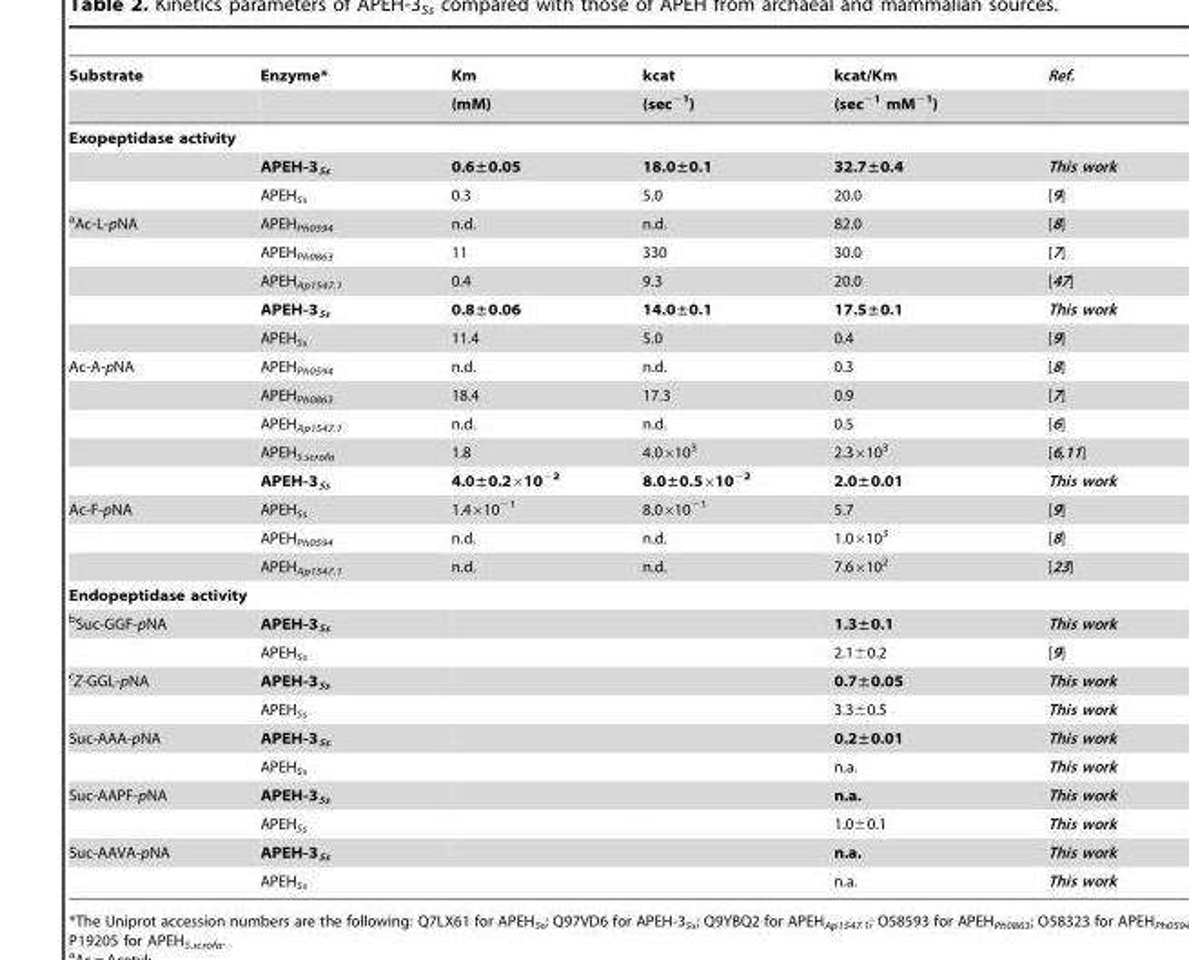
<table><thead><tr><td rowspan="2">Substrate</td><td rowspan="2">Enzyme*</td><td rowspan="2">Km (mM)</td><td rowspan="2">kcat (sec<sup>−1</sup>)</td><td rowspan="2">kcat/Km (sec<sup>−1</sup> mM<sup>−1</sup>)</td><td rowspan="2">Ref.</td></tr><tr></tr></thead><tbody><tr><td colspan="6">Exopeptidase activity</td></tr><tr><td></td><td>APEH-3<sub>Ss</sub></td><td>0.6±0.05</td><td>18.0±0.1</td><td>32.7±0.4</td><td>This work</td></tr><tr><td></td><td>APEH<sub>Ss</sub></td><td>0.3</td><td>5.0</td><td>20.0</td><td>[9]</td></tr><tr><td rowspan="5">aAc-L-pNA</td><td>APEH<sub>Ph0594</sub></td><td>n.d.</td><td>n.d.</td><td>82.0</td><td>[8]</td></tr><tr><td>APEH<sub>Ph0863</sub></td><td>11</td><td>330</td><td>30.0</td><td>[7]</td></tr><tr><td>APEH<sub>Ap1547.1</sub></td><td>0.4</td><td>9.3</td><td>20.0</td><td>[47]</td></tr><tr><td>APEH-3<sub>Ss</sub></td><td>0.8±0.06</td><td>14.0±0.1</td><td>17.5±0.1</td><td>This work</td></tr><tr><td>APEH<sub>Ss</sub></td><td>11.4</td><td>5.0</td><td>0.4</td><td>[9]</td></tr><tr><td rowspan="5">Ac-A-pNA</td><td>APEH<sub>Ph0594</sub></td><td>n.d.</td><td>n.d.</td><td>0.3</td><td>[8]</td></tr><tr><td>APEH<sub>Ph0863</sub></td><td>18.4</td><td>17.3</td><td>0.9</td><td>[7]</td></tr><tr><td>APEH<sub>Ap1547.1</sub></td><td>n.d.</td><td>n.d.</td><td>0.5</td><td>[6]</td></tr><tr><td>APEH<sub>S.scrofa</sub></td><td>1.8</td><td>4.0×10<sup>3</sup></td><td>2.3×10<sup>3</sup></td><td>[6,11]</td></tr><tr><td>APEH-3<sub>Ss</sub></td><td>4.0±0.2×10<sup>−2</sup></td><td>8.0±0.5×10<sup>−2</sup></td><td>2.0±0.01</td><td>This work</td></tr><tr><td rowspan="3">Ac-F-pNA</td><td>APEH<sub>Ss</sub></td><td>1.4×10<sup>−1</sup></td><td>8.0×10<sup>−1</sup></td><td>5.7</td><td>[9]</td></tr><tr><td>APEH<sub>Ph0594</sub></td><td>n.d.</td><td>n.d.</td><td>1.0×10<sup>3</sup></td><td>[8]</td></tr><tr><td>APEH<sub>Ap1547.1</sub></td><td>n.d.</td><td>n.d.</td><td>7.6×10<sup>2</sup></td><td>[23]</td></tr><tr><td colspan="6">Endopeptidase activity</td></tr><tr><td rowspan="2">bSuc-GGF-pNA</td><td>APEH-3<sub>Ss</sub></td><td></td><td></td><td>1.3±0.1</td><td>This work</td></tr><tr><td>APEH<sub>Ss</sub></td><td></td><td></td><td>2.1±0.2</td><td>[9]</td></tr><tr><td rowspan="2">cZ-GGL-pNA</td><td>APEH-3<sub>Ss</sub></td><td></td><td></td><td>0.7±0.05</td><td>This work</td></tr><tr><td>APEH<sub>Ss</sub></td><td></td><td></td><td>3.3±0.5</td><td>This work</td></tr><tr><td rowspan="2">Suc-AAA-pNA</td><td>APEH-3<sub>Ss</sub></td><td></td><td></td><td>0.2±0.01</td><td>This work</td></tr><tr><td>APEH<sub>Ss</sub></td><td></td><td></td><td>n.a.</td><td>This work</td></tr><tr><td rowspan="2">Suc-AAPF-pNA</td><td>APEH-3<sub>Ss</sub></td><td></td><td></td><td>n.a.</td><td>This work</td></tr><tr><td>APEH<sub>Ss</sub></td><td></td><td></td><td>1.0±0.1</td><td>This work</td></tr><tr><td rowspan="2">Suc-AAVA-pNA</td><td>APEH-3<sub>Ss</sub></td><td></td><td></td><td>n.a.</td><td>This work</td></tr><tr><td>APEH<sub>Ss</sub></td><td></td><td></td><td>n.a.</td><td>This work</td></tr></tbody></table>